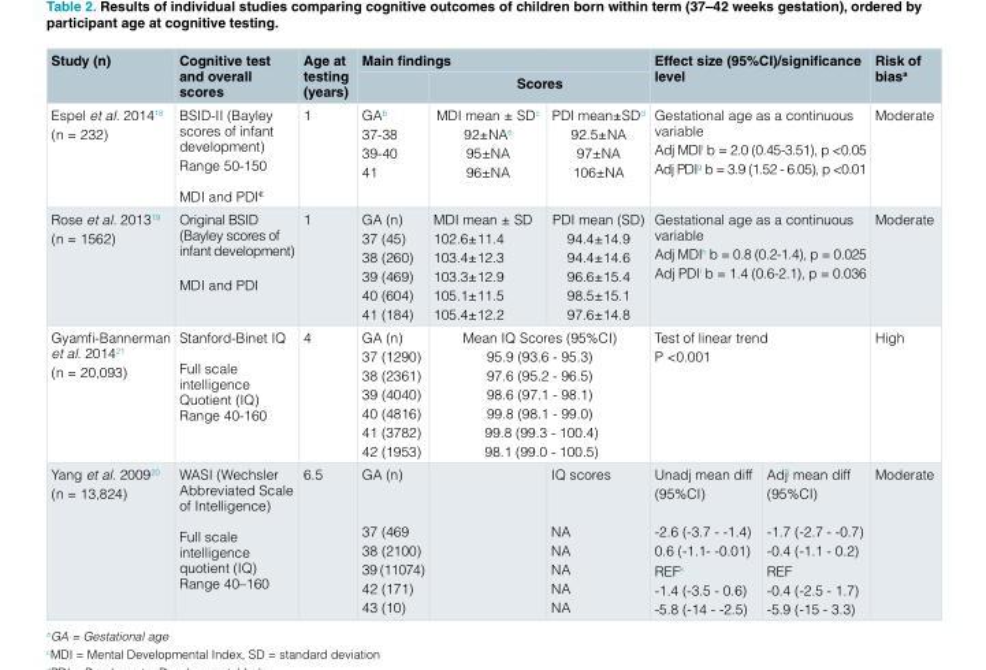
<table><thead><tr><td rowspan="2">Study (n)</td><td rowspan="2">Cognitive test and overall scores</td><td rowspan="2">Age at testing (years)</td><td colspan="3">Main findings</td><td rowspan="2" colspan="2">Effect size (95%CI)/significance level</td><td rowspan="2">Risk of bias<sup>a</sup></td></tr><tr><td></td><td colspan="2">Scores</td></tr></thead><tbody><tr><td>Espel et al. 2014<sup>18</sup> (n = 232)</td><td>BSID-II (Bayley scores of infant development) Range 50-150 MDI and PDI<sup>€</sup></td><td>1</td><td>GA<sup>b</sup> 37-38 39-40 41</td><td>MDI mean ± SD<sup>c</sup> 92±NA<sup>e</sup> 95±NA 96±NA</td><td>PDI mean±SD<sup>d</sup> 92.5±NA 97±NA 106±NA</td><td colspan="2">Gestational age as a continuous variable Adj MDI<sup>f</sup> b = 2.0 (0.45-3.51), p &lt;0.05 Adj PDI<sup>g</sup> b = 3.9 (1.52 - 6.05), p &lt;0.01</td><td>Moderate</td></tr><tr><td>Rose et al. 2013<sup>19</sup> (n = 1562)</td><td>Original BSID (Bayley scores of infant development) MDI and PDI</td><td>1</td><td>GA (n) 37 (45) 38 (260) 39 (469) 40 (604) 41 (184)</td><td>MDI mean ± SD 102.6±11.4 103.4±12.3 103.3±12.9 105.1±11.5 105.4±12.2</td><td>PDI mean (SD) 94.4±14.9 94.4±14.6 96.6±15.4 98.5±15.1 97.6±14.8</td><td colspan="2">Gestational age as a continuous variable Adj MDI<sup>h</sup> b = 0.8 (0.2-1.4), p = 0.025 Adj PDI<sup>i</sup> b = 1.4 (0.6-2.1), p = 0.036</td><td>Moderate</td></tr><tr><td>Gyamfi-Bannerman et al. 2014<sup>21</sup> (n = 20,093)</td><td>Stanford-Binet IQ Full scale intelligence Quotient (IQ) Range 40-160</td><td>4</td><td>GA (n) 37 (1290) 38 (2361) 39 (4040) 40 (4816) 41 (3782) 42 (1953)</td><td colspan="2">Mean IQ Scores (95%CI) 95.9 (93.6 - 95.3) 97.6 (95.2 - 96.5) 98.6 (97.1 - 98.1) 99.8 (98.1 - 99.0) 99.8 (99.3 - 100.4) 98.1 (99.0 - 100.5)</td><td colspan="2">Test of linear trend P &lt;0.001</td><td>High</td></tr><tr><td>Yang et al. 2009<sup>20</sup> (n = 13,824)</td><td>WASI (Wechsler Abbreviated Scale of Intelligence) Full scale intelligence quotient (IQ) Range 40–160</td><td>6.5</td><td>GA (n) 37 (469 38 (2100) 39 (11074) 42 (171) 43 (10)</td><td></td><td>IQ scores NA NA NA NA NA</td><td>Unadj mean diff (95%CI) -2.6 (-3.7 - -1.4) 0.6 (-1.1- -0.01) REF<sup>k</sup> -1.4 (-3.5 - 0.6) -5.8 (-14 - -2.5)</td><td>Adj<sup>j</sup> mean diff (95%CI) -1.7 (-2.7 - -0.7) -0.4 (-1.1 - 0.2) REF -0.4 (-2.5 - 1.7) -5.9 (-15 - 3.3)</td><td>Moderate</td></tr></tbody></table>